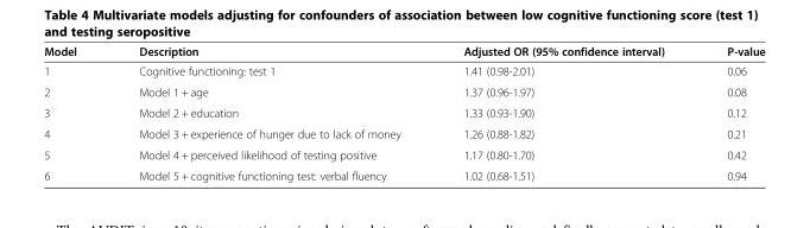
<table><thead><tr><td>Model</td><td>Description</td><td>Adjusted OR (95% confidence interval)</td><td>P-value</td></tr></thead><tbody><tr><td>1</td><td>Cognitive functioning: test 1</td><td>1.41 (0.98-2.01)</td><td>0.06</td></tr><tr><td>2</td><td>Model 1 + age</td><td>1.37 (0.96-1.97)</td><td>0.08</td></tr><tr><td>3</td><td>Model 2 + education</td><td>1.33 (0.93-1.90)</td><td>0.12</td></tr><tr><td>4</td><td>Model 3 + experience of hunger due to lack of money</td><td>1.26 (0.88-1.82)</td><td>0.21</td></tr><tr><td>5</td><td>Model 4 + perceived likelihood of testing positive</td><td>1.17 (0.80-1.70)</td><td>0.42</td></tr><tr><td>6</td><td>Model 5 + cognitive functioning test: verbal fluency</td><td>1.02 (0.68-1.51)</td><td>0.94</td></tr></tbody></table>